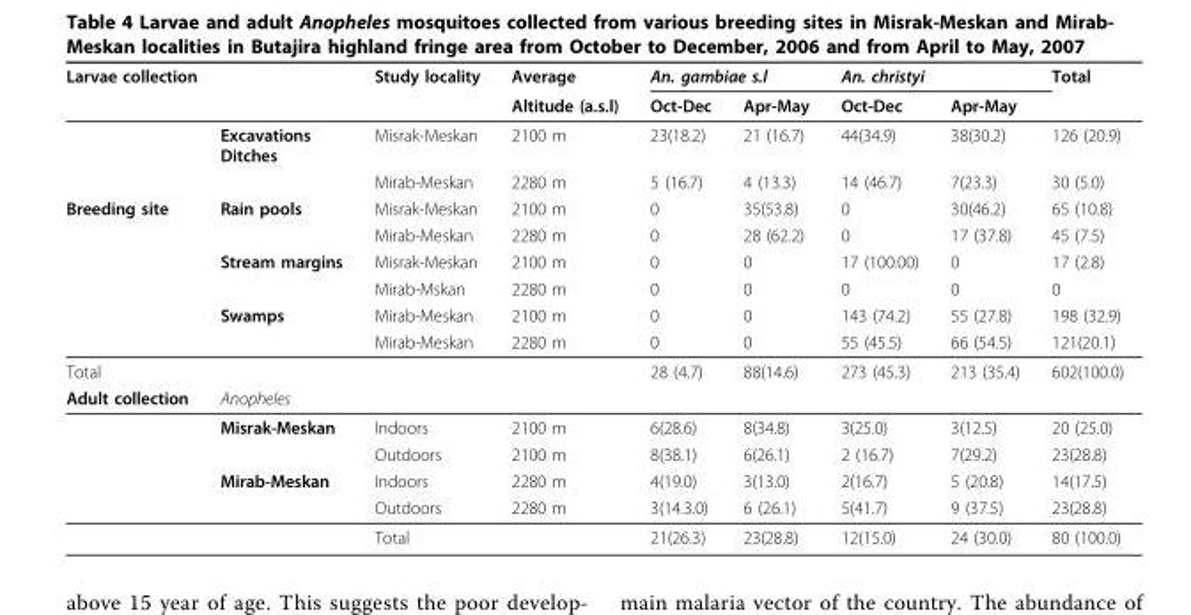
<table><thead><tr><td colspan="2">Larvae collection</td><td rowspan="2">Study locality</td><td rowspan="2">Average Altitude (a.s.l)</td><td colspan="2">An. gambiae s.l</td><td colspan="2">An. christyi</td><td rowspan="2">Total</td></tr><tr><td></td><td></td><td>Oct-Dec</td><td>Apr-May</td><td>Oct-Dec</td><td>Apr-May</td></tr></thead><tbody><tr><td></td><td>Excavations Ditches</td><td>Misrak-Meskan</td><td>2100 m</td><td>23(18.2)</td><td>21 (16.7)</td><td>44(34.9)</td><td>38(30.2)</td><td>126 (20.9)</td></tr><tr><td></td><td></td><td>Mirab-Meskan</td><td>2280 m</td><td>5 (16.7)</td><td>4 (13.3)</td><td>14 (46.7)</td><td>7(23.3)</td><td>30 (5.0)</td></tr><tr><td rowspan="6">Breeding site</td><td>Rain pools</td><td>Misrak-Meskan</td><td>2100 m</td><td>0</td><td>35(53.8)</td><td>0</td><td>30(46.2)</td><td>65 (10.8)</td></tr><tr><td></td><td>Mirab-Meskan</td><td>2280 m</td><td>0</td><td>28 (62.2)</td><td>0</td><td>17 (37.8)</td><td>45 (7.5)</td></tr><tr><td>Stream margins</td><td>Misrak-Meskan</td><td>2100 m</td><td>0</td><td>0</td><td>17 (100.00)</td><td>0</td><td>17 (2.8)</td></tr><tr><td></td><td>Mirab-Mskan</td><td>2280 m</td><td>0</td><td>0</td><td>0</td><td>0</td><td>0</td></tr><tr><td>Swamps</td><td>Mirab-Meskan</td><td>2100 m</td><td>0</td><td>0</td><td>143 (74.2)</td><td>55 (27.8)</td><td>198 (32.9)</td></tr><tr><td></td><td>Mirab-Meskan</td><td>2280 m</td><td>0</td><td>0</td><td>55 (45.5)</td><td>66 (54.5)</td><td>121(20.1)</td></tr><tr><td colspan="4">Total</td><td>28 (4.7)</td><td>88(14.6)</td><td>273 (45.3)</td><td>213 (35.4)</td><td>602(100.0)</td></tr><tr><td rowspan="6">Adult collection</td><td>Anopheles</td><td></td><td></td><td></td><td></td><td></td><td></td><td></td></tr><tr><td>Misrak-Meskan</td><td>Indoors</td><td>2100 m</td><td>6(28.6)</td><td>8(34.8)</td><td>3(25.0)</td><td>3(12.5)</td><td>20 (25.0)</td></tr><tr><td></td><td>Outdoors</td><td>2100 m</td><td>8(38.1)</td><td>6(26.1)</td><td>2 (16.7)</td><td>7(29.2)</td><td>23(28.8)</td></tr><tr><td>Mirab-Meskan</td><td>Indoors</td><td>2280 m</td><td>4(19.0)</td><td>3(13.0)</td><td>2(16.7)</td><td>5 (20.8)</td><td>14(17.5)</td></tr><tr><td></td><td>Outdoors</td><td>2280 m</td><td>3(14.3.0)</td><td>6 (26.1)</td><td>5(41.7)</td><td>9 (37.5)</td><td>23(28.8)</td></tr><tr><td></td><td>Total</td><td></td><td>21(26.3)</td><td>23(28.8)</td><td>12(15.0)</td><td>24 (30.0)</td><td>80 (100.0)</td></tr></tbody></table>